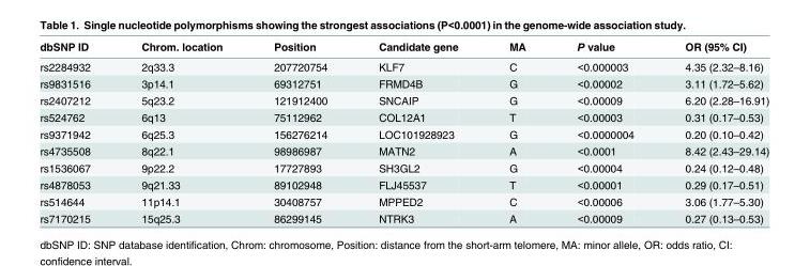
<table><thead><tr><td>dbSNP ID</td><td>Chrom. location</td><td>Position</td><td>Candidate gene</td><td>MA</td><td>P value</td><td>OR (95% CI)</td></tr></thead><tbody><tr><td>rs2284932</td><td>2q33.3</td><td>207720754</td><td>KLF7</td><td>C</td><td>&lt;0.000003</td><td>4.35 (2.32–8.16)</td></tr><tr><td>rs9831516</td><td>3p14.1</td><td>69312751</td><td>FRMD4B</td><td>G</td><td>&lt;0.00002</td><td>3.11 (1.72–5.62)</td></tr><tr><td>rs2407212</td><td>5q23.2</td><td>121912400</td><td>SNCAIP</td><td>G</td><td>&lt;0.00009</td><td>6.20 (2.28–16.91)</td></tr><tr><td>rs524762</td><td>6q13</td><td>75112962</td><td>COL12A1</td><td>T</td><td>&lt;0.00003</td><td>0.31 (0.17–0.53)</td></tr><tr><td>rs9371942</td><td>6q25.3</td><td>156276214</td><td>LOC101928923</td><td>G</td><td>&lt;0.0000004</td><td>0.20 (0.10–0.42)</td></tr><tr><td>rs4735508</td><td>8q22.1</td><td>98986987</td><td>MATN2</td><td>A</td><td>&lt;0.0001</td><td>8.42 (2.43–29.14)</td></tr><tr><td>rs1536067</td><td>9p22.2</td><td>17727893</td><td>SH3GL2</td><td>G</td><td>&lt;0.00004</td><td>0.24 (0.12–0.48)</td></tr><tr><td>rs4878053</td><td>9q21.33</td><td>89102948</td><td>FLJ45537</td><td>T</td><td>&lt;0.00001</td><td>0.29 (0.17–0.51)</td></tr><tr><td>rs514644</td><td>11p14.1</td><td>30408757</td><td>MPPED2</td><td>C</td><td>&lt;0.00006</td><td>3.06 (1.77–5.30)</td></tr><tr><td>rs7170215</td><td>15q25.3</td><td>86299145</td><td>NTRK3</td><td>A</td><td>&lt;0.00009</td><td>0.27 (0.13–0.53)</td></tr></tbody></table>